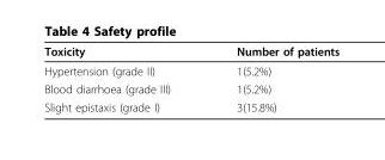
<table><thead><tr><td>Toxicity</td><td>Number of patients</td></tr></thead><tbody><tr><td>Hypertension (grade II)</td><td>1(5.2%)</td></tr><tr><td>Blood diarrhoea (grade III)</td><td>1(5.2%)</td></tr><tr><td>Slight epistaxis (grade I)</td><td>3(15.8%)</td></tr></tbody></table>